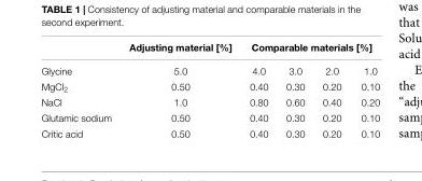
<table><thead><tr><td rowspan="2">Glycine</td><td rowspan="2">Adjusting material [%] 5.0</td><td colspan="4">Comparable materials [%]</td></tr><tr><td>4.0</td><td>3.0</td><td>2.0</td><td>1.0</td></tr></thead><tbody><tr><td>MgCl<sub>2</sub></td><td>0.50</td><td>0.40</td><td>0.30</td><td>0.20</td><td>0.10</td></tr><tr><td>NaCl</td><td>1.0</td><td>0.80</td><td>0.60</td><td>0.40</td><td>0.20</td></tr><tr><td>Glutamic sodium</td><td>0.50</td><td>0.40</td><td>0.30</td><td>0.20</td><td>0.10</td></tr><tr><td>Critic acid</td><td>0.50</td><td>0.40</td><td>0.30</td><td>0.20</td><td>0.10</td></tr></tbody></table>